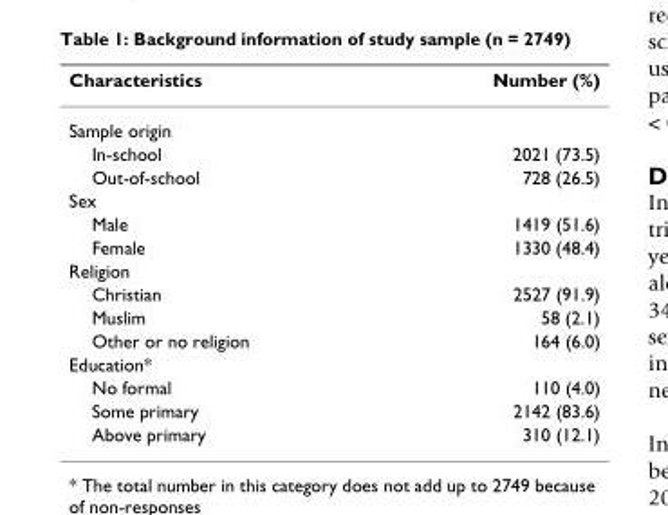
<table><thead><tr><td>Characteristics</td><td>Number (%)</td></tr></thead><tbody><tr><td colspan="2">Sample origin</td></tr><tr><td>In-school</td><td>2021 (73.5)</td></tr><tr><td>Out-of-school</td><td>728 (26.5)</td></tr><tr><td colspan="2">Sex</td></tr><tr><td>Male</td><td>1419 (51.6)</td></tr><tr><td>Female</td><td>1330 (48.4)</td></tr><tr><td colspan="2">Religion</td></tr><tr><td>Christian</td><td>2527 (91.9)</td></tr><tr><td>Muslim</td><td>58 (2.1)</td></tr><tr><td>Other or no religion</td><td>164 (6.0)</td></tr><tr><td colspan="2">Education*</td></tr><tr><td>No formal</td><td>110 (4.0)</td></tr><tr><td>Some primary</td><td>2142 (83.6)</td></tr><tr><td>Above primary</td><td>310 (12.1)</td></tr></tbody></table>